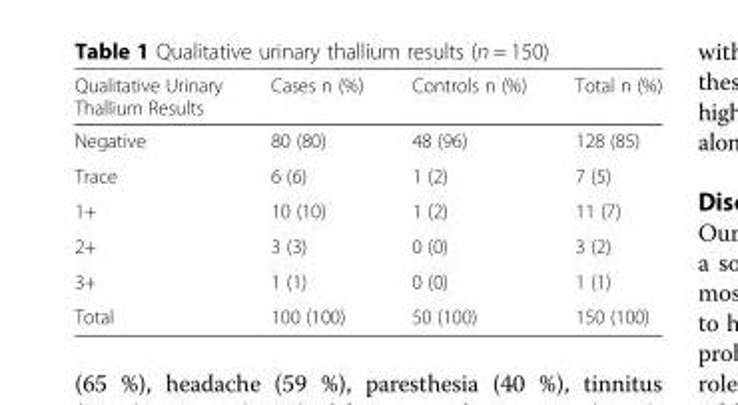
<table><thead><tr><td>Qualitative Urinary Thallium Results</td><td>Cases n (%)</td><td>Controls n (%)</td><td>Total n (%)</td></tr></thead><tbody><tr><td>Negative</td><td>80 (80)</td><td>48 (96)</td><td>128 (85)</td></tr><tr><td>Trace</td><td>6 (6)</td><td>1 (2)</td><td>7 (5)</td></tr><tr><td>1+</td><td>10 (10)</td><td>1 (2)</td><td>11 (7)</td></tr><tr><td>2+</td><td>3 (3)</td><td>0 (0)</td><td>3 (2)</td></tr><tr><td>3+</td><td>1 (1)</td><td>0 (0)</td><td>1 (1)</td></tr><tr><td>Total</td><td>100 (100)</td><td>50 (100)</td><td>150 (100)</td></tr></tbody></table>